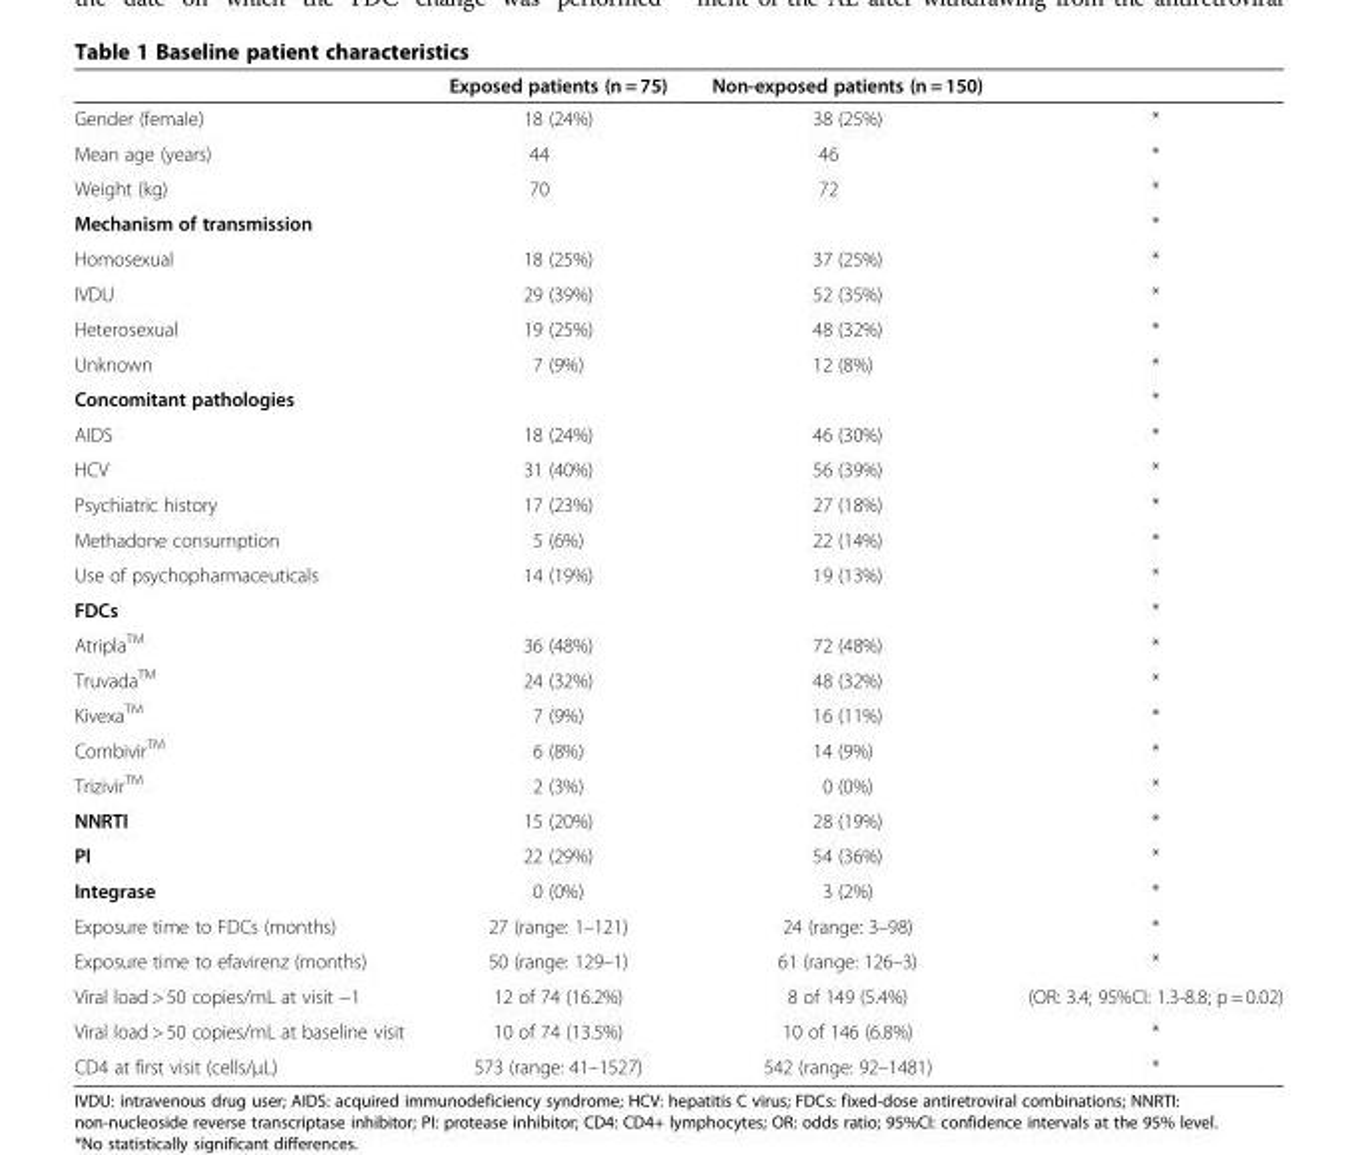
<table><thead><tr><td></td><td>Exposed patients (n = 75)</td><td>Non-exposed patients (n = 150)</td><td></td></tr></thead><tbody><tr><td>Gender (female)</td><td>18 (24%)</td><td>38 (25%)</td><td>*</td></tr><tr><td>Mean age (years)</td><td>44</td><td>46</td><td>*</td></tr><tr><td>Weight (kg)</td><td>70</td><td>72</td><td>*</td></tr><tr><td colspan="3">Mechanism of transmission</td><td>*</td></tr><tr><td>Homosexual</td><td>18 (25%)</td><td>37 (25%)</td><td>*</td></tr><tr><td>IVDU</td><td>29 (39%)</td><td>52 (35%)</td><td>*</td></tr><tr><td>Heterosexual</td><td>19 (25%)</td><td>48 (32%)</td><td>*</td></tr><tr><td>Unknown</td><td>7 (9%)</td><td>12 (8%)</td><td>*</td></tr><tr><td colspan="2">Concomitant pathologies</td><td></td><td>*</td></tr><tr><td>AIDS</td><td>18 (24%)</td><td>46 (30%)</td><td>*</td></tr><tr><td>HCV</td><td>31 (40%)</td><td>56 (39%)</td><td>*</td></tr><tr><td>Psychiatric history</td><td>17 (23%)</td><td>27 (18%)</td><td>*</td></tr><tr><td>Methadone consumption</td><td>5 (6%)</td><td>22 (14%)</td><td>*</td></tr><tr><td>Use of psychopharmaceuticals</td><td>14 (19%)</td><td>19 (13%)</td><td>*</td></tr><tr><td>FDCs</td><td></td><td></td><td>*</td></tr><tr><td>Atripla<sup>TM</sup></td><td>36 (48%)</td><td>72 (48%)</td><td>*</td></tr><tr><td>Truvada<sup>TM</sup></td><td>24 (32%)</td><td>48 (32%)</td><td>*</td></tr><tr><td>Kivexa<sup>TM</sup></td><td>7 (9%)</td><td>16 (11%)</td><td>*</td></tr><tr><td>Combivir<sup>TM</sup></td><td>6 (8%)</td><td>14 (9%)</td><td>*</td></tr><tr><td>Trizivir<sup>TM</sup></td><td>2 (3%)</td><td>0 (0%)</td><td>*</td></tr><tr><td>NNRTI</td><td>15 (20%)</td><td>28 (19%)</td><td>*</td></tr><tr><td>PI</td><td>22 (29%)</td><td>54 (36%)</td><td>*</td></tr><tr><td>Integrase</td><td>0 (0%)</td><td>3 (2%)</td><td>*</td></tr><tr><td>Exposure time to FDCs (months)</td><td>27 (range: 1–121)</td><td>24 (range: 3–98)</td><td>*</td></tr><tr><td>Exposure time to efavirenz (months)</td><td>50 (range: 129–1)</td><td>61 (range: 126–3)</td><td>*</td></tr><tr><td>Viral load &gt; 50 copies/mL at visit −1</td><td>12 of 74 (16.2%)</td><td>8 of 149 (5.4%)</td><td>(OR: 3.4; 95%CI: 1.3-8.8; p = 0.02)</td></tr><tr><td>Viral load &gt; 50 copies/mL at baseline visit</td><td>10 of 74 (13.5%)</td><td>10 of 146 (6.8%)</td><td>*</td></tr><tr><td>CD4 at first visit (cells/μL)</td><td>573 (range: 41–1527)</td><td>542 (range: 92–1481)</td><td>*</td></tr></tbody></table>